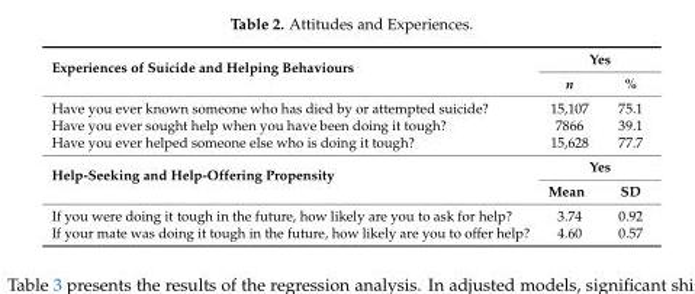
<table><tbody><tr><td rowspan="2">Experiences of Suicide and Helping Behaviours</td><td colspan="2">Yes</td></tr><tr><td>n</td><td>%</td></tr><tr><td>Have you ever known someone who has died by or attempted suicide?</td><td>15,107</td><td>75.1</td></tr><tr><td>Have you ever sought help when you have been doing it tough?</td><td>7866</td><td>39.1</td></tr><tr><td>Have you ever helped someone else who is doing it tough?</td><td>15,628</td><td>77.7</td></tr><tr><td rowspan="2">Help-Seeking and Help-Offering Propensity</td><td colspan="2">Yes</td></tr><tr><td>Mean</td><td>SD</td></tr><tr><td>If you were doing it tough in the future, how likely are you to ask for help?</td><td>3.74</td><td>0.92</td></tr><tr><td>If your mate was doing it tough in the future, how likely are you to offer help?</td><td>4.60</td><td>0.57</td></tr></tbody></table>